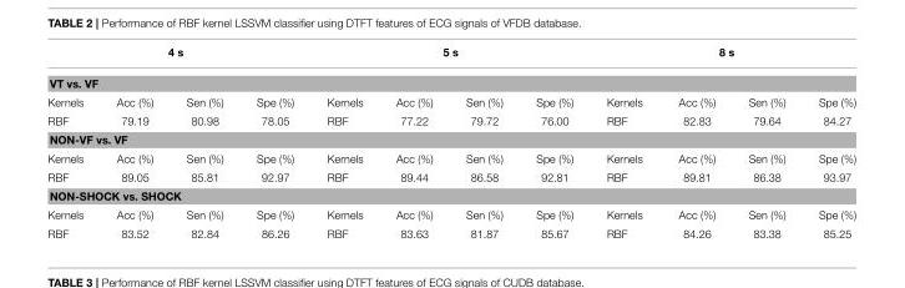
<table><thead><tr><td colspan="4">4 s</td><td colspan="4">5 s</td><td colspan="4">8 s</td></tr><tr><td colspan="12">VT vs. VF</td></tr><tr><td>Kernels</td><td>Acc (%)</td><td>Sen (%)</td><td>Spe (%)</td><td>Kernels</td><td>Acc (%)</td><td>Sen (%)</td><td>Spe (%)</td><td>Kernels</td><td>Acc (%)</td><td>Sen (%)</td><td>Spe (%)</td></tr></thead><tbody><tr><td>RBF</td><td>79.19</td><td>80.98</td><td>78.05</td><td>RBF</td><td>77.22</td><td>79.72</td><td>76.00</td><td>RBF</td><td>82.83</td><td>79.64</td><td>84.27</td></tr><tr><td colspan="12">NON-VF vs. VF</td></tr><tr><td>Kernels</td><td>Acc (%)</td><td>Sen (%)</td><td>Spe (%)</td><td>Kernels</td><td>Acc (%)</td><td>Sen (%)</td><td>Spe (%)</td><td>Kernels</td><td>Acc (%)</td><td>Sen (%)</td><td>Spe (%)</td></tr><tr><td>RBF</td><td>89.05</td><td>85.81</td><td>92.97</td><td>RBF</td><td>89.44</td><td>86.58</td><td>92.81</td><td>RBF</td><td>89.81</td><td>86.38</td><td>93.97</td></tr><tr><td colspan="12">NON-SHOCK vs. SHOCK</td></tr><tr><td>Kernels</td><td>Acc (%)</td><td>Sen (%)</td><td>Spe (%)</td><td>Kernels</td><td>Acc (%)</td><td>Sen (%)</td><td>Spe (%)</td><td>Kernels</td><td>Acc (%)</td><td>Sen (%)</td><td>Spe (%)</td></tr><tr><td>RBF</td><td>83.52</td><td>82.84</td><td>86.26</td><td>RBF</td><td>83.63</td><td>81.87</td><td>85.67</td><td>RBF</td><td>84.26</td><td>83.38</td><td>85.25</td></tr></tbody></table>